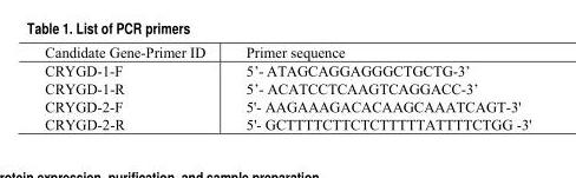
<table><thead><tr><td>Candidate Gene-Primer ID</td><td>Primer sequence</td></tr></thead><tbody><tr><td>CRYGD-1-F</td><td>5’- ATAGCAGGAGGGCTGCTG-3’</td></tr><tr><td>CRYGD-1-R</td><td>5’- ACATCCTCAAGTCAGGACC-3’</td></tr><tr><td>CRYGD-2-F</td><td>5&#x27;- AAGAAAGACACAAGCAAATCAGT-3&#x27;</td></tr><tr><td>CRYGD-2-R</td><td>5&#x27;- GCTTTTCTTCTCTTTTTATTTTCTGG -3&#x27;</td></tr></tbody></table>